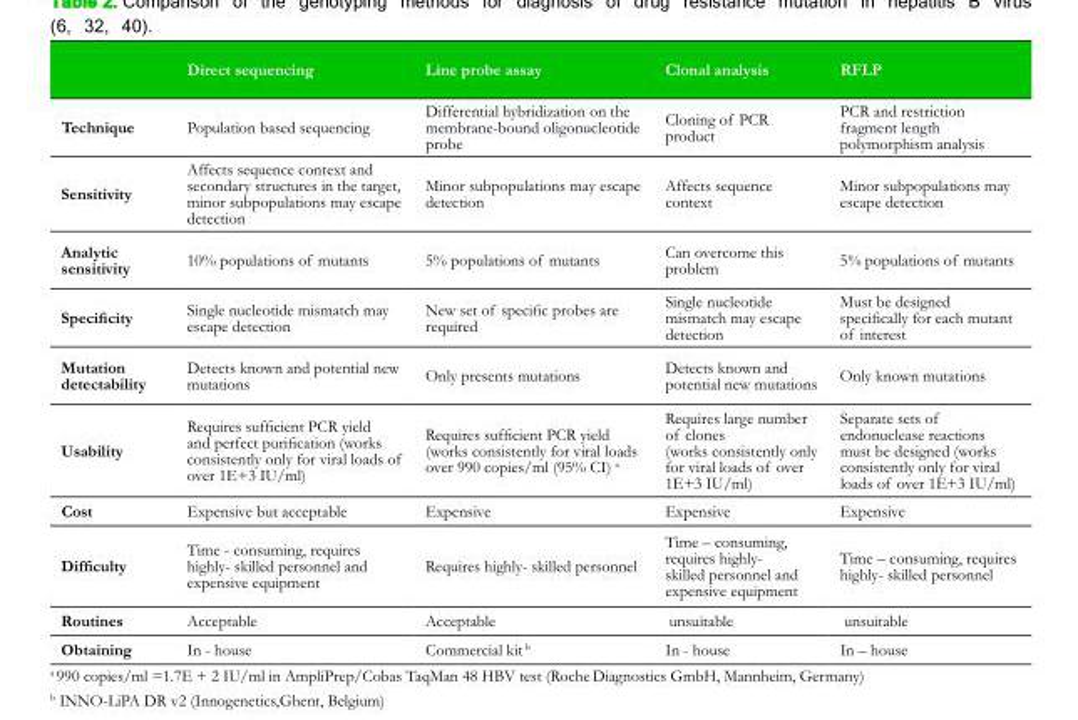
<table><thead><tr><td></td><td>Direct sequencing</td><td>Line probe assay</td><td>Clonal analysis</td><td>RFLP</td></tr></thead><tbody><tr><td>Technique</td><td>Population based sequencing</td><td>Differential hybridization on the membrane-bound oligonucleotide probe</td><td>Cloning of PCR product</td><td>PCR and restriction fragment length polymorphism analysis</td></tr><tr><td>Sensitivity</td><td>Affects sequence context and secondary structures in the target, minor subpopulations may escape detection</td><td>Minor subpopulations may escape detection</td><td>Affects sequence context</td><td>Minor subpopulations may escape detection</td></tr><tr><td>Analytic sensitivity</td><td>10% populations of mutants</td><td>5% populations of mutants</td><td>Can overcome this problem</td><td>5% populations of mutants</td></tr><tr><td>Specificity</td><td>Single nucleotide mismatch may escape detection</td><td>New set of specific probes are required</td><td>Single nucleotide mismatch may escape detection</td><td>Must be designed specifically for each mutant of interest</td></tr><tr><td>Mutation detectability</td><td>Detects known and potential new mutations</td><td>Only presents mutations</td><td>Detects known and potential new mutations</td><td>Only known mutations</td></tr><tr><td>Usability</td><td>Requires sufficient PCR yield and perfect purification (works consistently only for viral loads of over 1E+3 IU/ml)</td><td>Requires sufficient PCR yield (works consistently for viral loads over 990 copies/ml (95% CI) a</td><td>Requires large number of clones (works consistently only for viral loads of over 1E+3 IU/ml)</td><td>Separate sets of endonuclease reactions must be designed (works consistently only for viral loads of over 1E+3 IU/ml)</td></tr><tr><td>Cost</td><td>Expensive but acceptable</td><td>Expensive</td><td>Expensive</td><td>Expensive</td></tr><tr><td>Difficulty</td><td>Time - consuming, requires highly- skilled personnel and expensive equipment</td><td>Requires highly- skilled personnel</td><td>Time – consuming, requires highly- skilled personnel and expensive equipment</td><td>Time – consuming, requires highly- skilled personnel</td></tr><tr><td>Routines</td><td>Acceptable</td><td>Acceptable</td><td>unsuitable</td><td>unsuitable</td></tr><tr><td>Obtaining</td><td>In - house</td><td>Commercial kit b</td><td>In - house</td><td>In – house</td></tr></tbody></table>